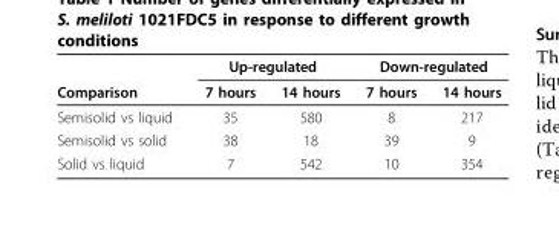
<table><thead><tr><td rowspan="2">Comparison</td><td colspan="2">Up-regulated</td><td colspan="2">Down-regulated</td></tr><tr><td>7 hours</td><td>14 hours</td><td>7 hours</td><td>14 hours</td></tr></thead><tbody><tr><td>Semisolid vs liquid</td><td>35</td><td>580</td><td>8</td><td>217</td></tr><tr><td>Semisolid vs solid</td><td>38</td><td>18</td><td>39</td><td>9</td></tr><tr><td>Solid vs liquid</td><td>7</td><td>542</td><td>10</td><td>354</td></tr></tbody></table>